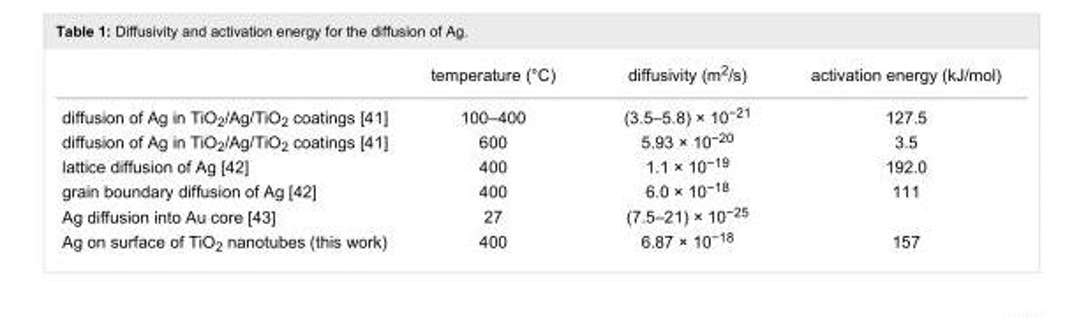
<table><thead><tr><td></td><td>temperature (°C)</td><td>diffusivity (m<sup>2</sup>/s)</td><td>activation energy (kJ/mol)</td></tr></thead><tbody><tr><td>diffusion of Ag in TiO<sub>2</sub>/Ag/TiO<sub>2</sub> coatings [41]</td><td>100–400</td><td>(3.5–5.8) × 10<sup>−21</sup></td><td>127.5</td></tr><tr><td>diffusion of Ag in TiO<sub>2</sub>/Ag/TiO<sub>2</sub> coatings [41]</td><td>600</td><td>5.93 × 10<sup>−20</sup></td><td>3.5</td></tr><tr><td>lattice diffusion of Ag [42]</td><td>400</td><td>1.1 × 10<sup>−19</sup></td><td>192.0</td></tr><tr><td>grain boundary diffusion of Ag [42]</td><td>400</td><td>6.0 × 10<sup>−18</sup></td><td>111</td></tr><tr><td>Ag diffusion into Au core [43]</td><td>27</td><td>(7.5–21) × 10<sup>−25</sup></td><td></td></tr><tr><td>Ag on surface of TiO<sub>2</sub> nanotubes (this work)</td><td>400</td><td>6.87 × 10<sup>−18</sup></td><td>157</td></tr></tbody></table>